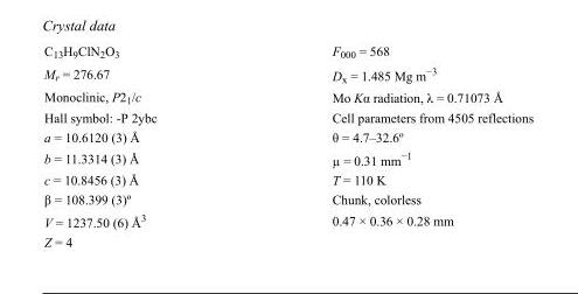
<table><tbody><tr><td>C<sub>13</sub>H<sub>9</sub>ClN<sub>2</sub>O<sub>3</sub></td><td>F000 = 568</td></tr><tr><td>M<sub>r</sub> = 276.67</td><td>D<sub>x</sub> = 1.485 Mg m<sup>−3</sup></td></tr><tr><td>Monoclinic, P2<sub>1</sub>/c</td><td>Mo Kα radiation, λ = 0.71073 Å</td></tr><tr><td>Hall symbol: -P 2ybc</td><td>Cell parameters from 4505 reflections</td></tr><tr><td>a = 10.6120 (3) Å</td><td>θ = 4.7–32.6º</td></tr><tr><td>b = 11.3314 (3) Å</td><td>µ = 0.31 mm<sup>−1</sup></td></tr><tr><td>c = 10.8456 (3) Å</td><td>T = 110 K</td></tr><tr><td>β = 108.399 (3)º</td><td>Chunk, colorless</td></tr><tr><td>V = 1237.50 (6) Å<sup>3</sup></td><td>0.47 × 0.36 × 0.28 mm</td></tr><tr><td>Z = 4</td><td></td></tr></tbody></table>